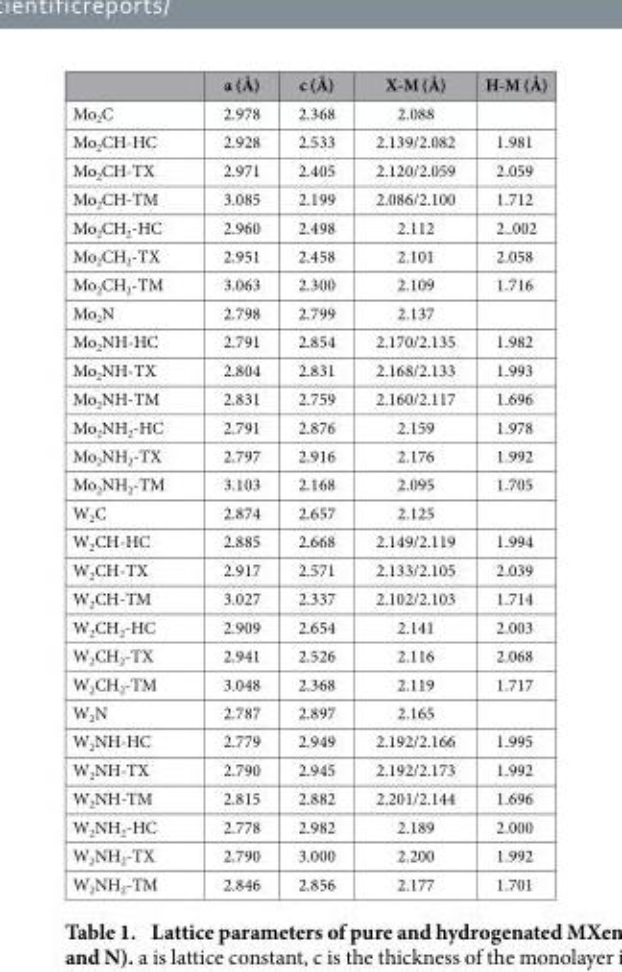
<table><thead><tr><td></td><td>a (Å)</td><td>c (Å)</td><td>X-M (Å)</td><td>H-M (Å)</td></tr></thead><tbody><tr><td>Mo<sub>2</sub>C</td><td>2.978</td><td>2.368</td><td>2.088</td><td></td></tr><tr><td>Mo<sub>2</sub>CH-HC</td><td>2.928</td><td>2.533</td><td>2.139/2.082</td><td>1.981</td></tr><tr><td>Mo<sub>2</sub>CH-TX</td><td>2.971</td><td>2.405</td><td>2.120/2.059</td><td>2.059</td></tr><tr><td>Mo<sub>2</sub>CH-TM</td><td>3.085</td><td>2.199</td><td>2.086/2.100</td><td>1.712</td></tr><tr><td>Mo<sub>2</sub>CH<sub>2</sub>-HC</td><td>2.960</td><td>2.498</td><td>2.112</td><td>2..002</td></tr><tr><td>Mo<sub>2</sub>CH<sub>2</sub>-TX</td><td>2.951</td><td>2.458</td><td>2.101</td><td>2.058</td></tr><tr><td>Mo<sub>2</sub>CH<sub>2</sub>-TM</td><td>3.063</td><td>2.300</td><td>2.109</td><td>1.716</td></tr><tr><td>Mo<sub>2</sub>N</td><td>2.798</td><td>2.799</td><td>2.137</td><td></td></tr><tr><td>Mo<sub>2</sub>NH-HC</td><td>2.791</td><td>2.854</td><td>2.170/2.135</td><td>1.982</td></tr><tr><td>Mo<sub>2</sub>NH-TX</td><td>2.804</td><td>2.831</td><td>2.168/2.133</td><td>1.993</td></tr><tr><td>Mo<sub>2</sub>NH-TM</td><td>2.831</td><td>2.759</td><td>2.160/2.117</td><td>1.696</td></tr><tr><td>Mo<sub>2</sub>NH<sub>2</sub>-HC</td><td>2.791</td><td>2.876</td><td>2.159</td><td>1.978</td></tr><tr><td>Mo<sub>2</sub>NH<sub>2</sub>-TX</td><td>2.797</td><td>2.916</td><td>2.176</td><td>1.992</td></tr><tr><td>Mo<sub>2</sub>NH<sub>2</sub>-TM</td><td>3.103</td><td>2.168</td><td>2.095</td><td>1.705</td></tr><tr><td>W<sub>2</sub>C</td><td>2.874</td><td>2.657</td><td>2.125</td><td></td></tr><tr><td>W<sub>2</sub>CH-HC</td><td>2.885</td><td>2.668</td><td>2.149/2.119</td><td>1.994</td></tr><tr><td>W<sub>2</sub>CH-TX</td><td>2.917</td><td>2.571</td><td>2.133/2.105</td><td>2.039</td></tr><tr><td>W<sub>2</sub>CH-TM</td><td>3.027</td><td>2.337</td><td>2.102/2.103</td><td>1.714</td></tr><tr><td>W<sub>2</sub>CH<sub>2</sub>-HC</td><td>2.909</td><td>2.654</td><td>2.141</td><td>2.003</td></tr><tr><td>W<sub>2</sub>CH<sub>2</sub>-TX</td><td>2.941</td><td>2.526</td><td>2.116</td><td>2.068</td></tr><tr><td>W<sub>2</sub>CH<sub>2</sub>-TM</td><td>3.048</td><td>2.368</td><td>2.119</td><td>1.717</td></tr><tr><td>W<sub>2</sub>N</td><td>2.787</td><td>2.897</td><td>2.165</td><td></td></tr><tr><td>W<sub>2</sub>NH-HC</td><td>2.779</td><td>2.949</td><td>2.192/2.166</td><td>1.995</td></tr><tr><td>W<sub>2</sub>NH-TX</td><td>2.790</td><td>2.945</td><td>2.192/2.173</td><td>1.992</td></tr><tr><td>W<sub>2</sub>NH-TM</td><td>2.815</td><td>2.882</td><td>2.201/2.144</td><td>1.696</td></tr><tr><td>W<sub>2</sub>NH<sub>2</sub>-HC</td><td>2.778</td><td>2.982</td><td>2.189</td><td>2.000</td></tr><tr><td>W<sub>2</sub>NH<sub>2</sub>-TX</td><td>2.790</td><td>3.000</td><td>2.200</td><td>1.992</td></tr><tr><td>W<sub>2</sub>NH<sub>2</sub>-TM</td><td>2.846</td><td>2.856</td><td>2.177</td><td>1.701</td></tr></tbody></table>